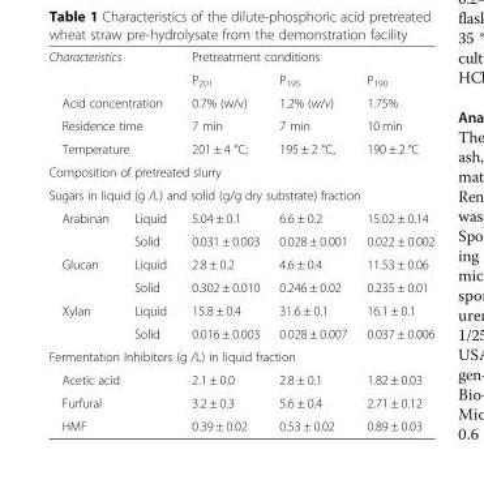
<table><tbody><tr><td rowspan="2" colspan="2">Characteristics</td><td colspan="3">Pretreatment conditions</td></tr><tr><td>P<sub>201</sub></td><td>P<sub>195</sub></td><td>P<sub>190</sub></td></tr><tr><td colspan="2">Acid concentration</td><td>0.7% (w/v)</td><td>1.2% (w/v)</td><td>1.75%</td></tr><tr><td colspan="2">Residence time</td><td>7 min</td><td>7 min</td><td>10 min</td></tr><tr><td colspan="2">Temperature</td><td>201 ± 4 °C;</td><td>195 ± 2 °C,</td><td>190 ± 2 °C</td></tr><tr><td colspan="5">Composition of pretreated slurry</td></tr><tr><td colspan="5">Sugars in liquid (g /L) and solid (g/g dry substrate) fraction</td></tr><tr><td rowspan="2">Arabinan</td><td>Liquid</td><td>5.04 ± 0.1</td><td>6.6 ± 0.2</td><td>15.02 ± 0.14</td></tr><tr><td>Solid</td><td>0.031 ± 0.003</td><td>0.028 ± 0.001</td><td>0.022 ± 0.002</td></tr><tr><td rowspan="2">Glucan</td><td>Liquid</td><td>2.8 ± 0.2</td><td>4.6 ± 0.4</td><td>11.53 ± 0.06</td></tr><tr><td>Solid</td><td>0.302 ± 0.010</td><td>0.246 ± 0.02</td><td>0.235 ± 0.01</td></tr><tr><td rowspan="2">Xylan</td><td>Liquid</td><td>15.8 ± 0.4</td><td>31.6 ± 0.1</td><td>16.1 ± 0.1</td></tr><tr><td>Solid</td><td>0.016 ± 0.003</td><td>0.028 ± 0.007</td><td>0.037 ± 0.006</td></tr><tr><td colspan="5">Fermentation Inhibitors (g /L) in liquid fraction</td></tr><tr><td colspan="2">Acetic acid</td><td>2.1 ± 0.0</td><td>2.8 ± 0.1</td><td>1.82 ± 0.03</td></tr><tr><td colspan="2">Furfural</td><td>3.2 ± 0.3</td><td>5.6 ± 0.4</td><td>2.71 ± 0.12</td></tr><tr><td colspan="2">HMF</td><td>0.39 ± 0.02</td><td>0.53 ± 0.02</td><td>0.89 ± 0.03</td></tr></tbody></table>